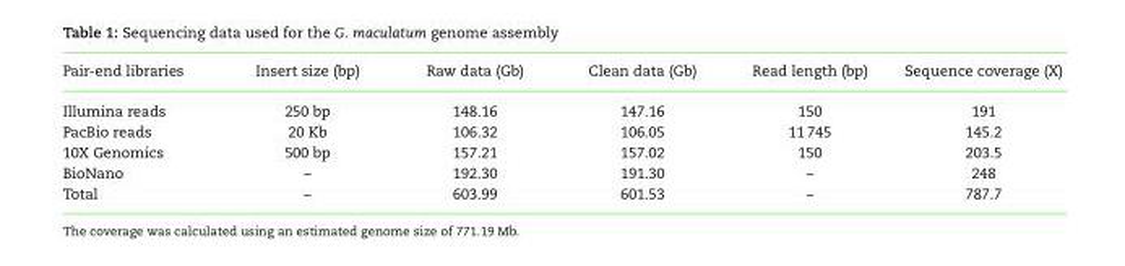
<table><thead><tr><td>Pair-end libraries</td><td>Insert size (bp)</td><td>Raw data (Gb)</td><td>Clean data (Gb)</td><td>Read length (bp)</td><td>Sequence coverage (X)</td></tr></thead><tbody><tr><td>Illumina reads</td><td>250 bp</td><td>148.16</td><td>147.16</td><td>150</td><td>191</td></tr><tr><td>PacBio reads</td><td>20 Kb</td><td>106.32</td><td>106.05</td><td>11 745</td><td>145.2</td></tr><tr><td>10X Genomics</td><td>500 bp</td><td>157.21</td><td>157.02</td><td>150</td><td>203.5</td></tr><tr><td>BioNano</td><td>–</td><td>192.30</td><td>191.30</td><td>–</td><td>248</td></tr><tr><td>Total</td><td>–</td><td>603.99</td><td>601.53</td><td>–</td><td>787.7</td></tr></tbody></table>